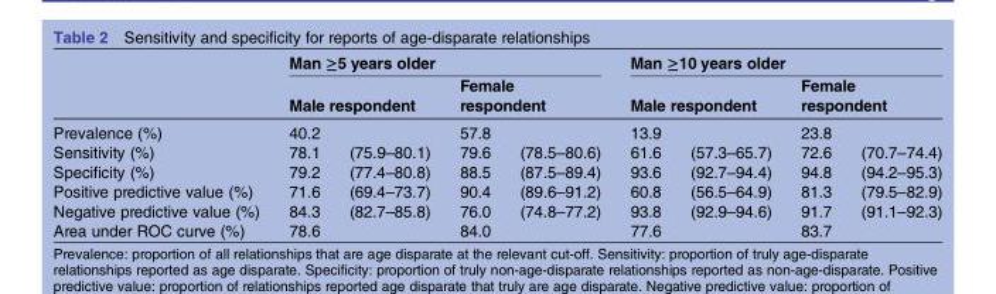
<table><thead><tr><td rowspan="3">Prevalence (%)</td><td colspan="4">Man ≥5 years older</td><td colspan="4">Man ≥10 years older</td></tr><tr><td colspan="2">Male respondent</td><td colspan="2">Female respondent</td><td colspan="2">Male respondent</td><td colspan="2">Female respondent</td></tr><tr><td>40.2</td><td></td><td>57.8</td><td></td><td>13.9</td><td></td><td>23.8</td><td></td></tr></thead><tbody><tr><td>Sensitivity (%)</td><td>78.1</td><td>(75.9–80.1)</td><td>79.6</td><td>(78.5–80.6)</td><td>61.6</td><td>(57.3–65.7)</td><td>72.6</td><td>(70.7–74.4)</td></tr><tr><td>Specificity (%)</td><td>79.2</td><td>(77.4–80.8)</td><td>88.5</td><td>(87.5–89.4)</td><td>93.6</td><td>(92.7–94.4)</td><td>94.8</td><td>(94.2–95.3)</td></tr><tr><td>Positive predictive value (%)</td><td>71.6</td><td>(69.4–73.7)</td><td>90.4</td><td>(89.6–91.2)</td><td>60.8</td><td>(56.5–64.9)</td><td>81.3</td><td>(79.5–82.9)</td></tr><tr><td>Negative predictive value (%)</td><td>84.3</td><td>(82.7–85.8)</td><td>76.0</td><td>(74.8–77.2)</td><td>93.8</td><td>(92.9–94.6)</td><td>91.7</td><td>(91.1–92.3)</td></tr><tr><td>Area under ROC curve (%)</td><td>78.6</td><td></td><td>84.0</td><td></td><td>77.6</td><td></td><td>83.7</td><td></td></tr></tbody></table>